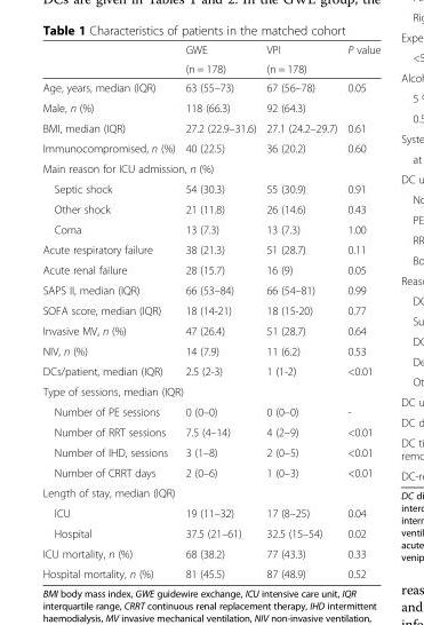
<table><thead><tr><td rowspan="2"></td><td rowspan="2">GWE (n = 178)</td><td rowspan="2">VPI (n = 178)</td><td rowspan="2">P value</td></tr><tr></tr></thead><tbody><tr><td>Age, years, median (IQR)</td><td>63 (55–73)</td><td>67 (56–78)</td><td>0.05</td></tr><tr><td>Male, n (%)</td><td>118 (66.3)</td><td>92 (64.3)</td><td></td></tr><tr><td>BMI, median (IQR)</td><td>27.2 (22.9–31.6)</td><td>27.1 (24.2–29.7)</td><td>0.61</td></tr><tr><td>Immunocompromised, n (%)</td><td>40 (22.5)</td><td>36 (20.2)</td><td>0.60</td></tr><tr><td colspan="4">Main reason for ICU admission, n (%)</td></tr><tr><td>Septic shock</td><td>54 (30.3)</td><td>55 (30.9)</td><td>0.91</td></tr><tr><td>Other shock</td><td>21 (11.8)</td><td>26 (14.6)</td><td>0.43</td></tr><tr><td>Coma</td><td>13 (7.3)</td><td>13 (7.3)</td><td>1.00</td></tr><tr><td>Acute respiratory failure</td><td>38 (21.3)</td><td>51 (28.7)</td><td>0.11</td></tr><tr><td>Acute renal failure</td><td>28 (15.7)</td><td>16 (9)</td><td>0.05</td></tr><tr><td>SAPS II, median (IQR)</td><td>66 (53–84)</td><td>66 (54–81)</td><td>0.99</td></tr><tr><td>SOFA score, median (IQR)</td><td>18 (14-21)</td><td>18 (15-20)</td><td>0.77</td></tr><tr><td>Invasive MV, n (%)</td><td>47 (26.4)</td><td>51 (28.7)</td><td>0.64</td></tr><tr><td>NIV, n (%)</td><td>14 (7.9)</td><td>11 (6.2)</td><td>0.53</td></tr><tr><td>DCs/patient, median (IQR)</td><td>2.5 (2-3)</td><td>1 (1-2)</td><td>&lt;0.01</td></tr><tr><td colspan="4">Type of sessions, median (IQR)</td></tr><tr><td>Number of PE sessions</td><td>0 (0–0)</td><td>0 (0–0)</td><td>-</td></tr><tr><td>Number of RRT sessions</td><td>7.5 (4–14)</td><td>4 (2–9)</td><td>&lt;0.01</td></tr><tr><td>Number of IHD, sessions</td><td>3 (1–8)</td><td>2 (0–5)</td><td>&lt;0.01</td></tr><tr><td>Number of CRRT days</td><td>2 (0–6)</td><td>1 (0–3)</td><td>&lt;0.01</td></tr><tr><td colspan="4">Length of stay, median (IQR)</td></tr><tr><td>ICU</td><td>19 (11–32)</td><td>17 (8–25)</td><td>0.04</td></tr><tr><td>Hospital</td><td>37.5 (21–61)</td><td>32.5 (15–54)</td><td>0.02</td></tr><tr><td>ICU mortality, n (%)</td><td>68 (38.2)</td><td>77 (43.3)</td><td>0.33</td></tr><tr><td>Hospital mortality, n (%)</td><td>81 (45.5)</td><td>87 (48.9)</td><td>0.52</td></tr></tbody></table>